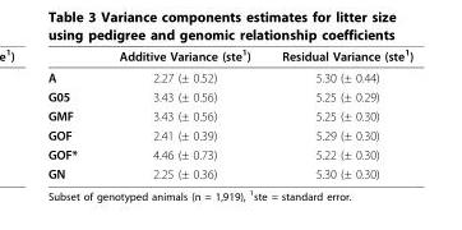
<table><thead><tr><td></td><td>Additive Variance (ste<sup>1</sup>)</td><td>Residual Variance (ste<sup>1</sup>)</td></tr></thead><tbody><tr><td>A</td><td>2.27 (± 0.52)</td><td>5.30 (± 0.44)</td></tr><tr><td>G05</td><td>3.43 (± 0.56)</td><td>5.25 (± 0.29)</td></tr><tr><td>GMF</td><td>3.43 (± 0.56)</td><td>5.25 (± 0.30)</td></tr><tr><td>GOF</td><td>2.41 (± 0.39)</td><td>5.29 (± 0.30)</td></tr><tr><td>GOF*</td><td>4.46 (± 0.73)</td><td>5.22 (± 0.30)</td></tr><tr><td>GN</td><td>2.25 (± 0.36)</td><td>5.30 (± 0.30)</td></tr></tbody></table>